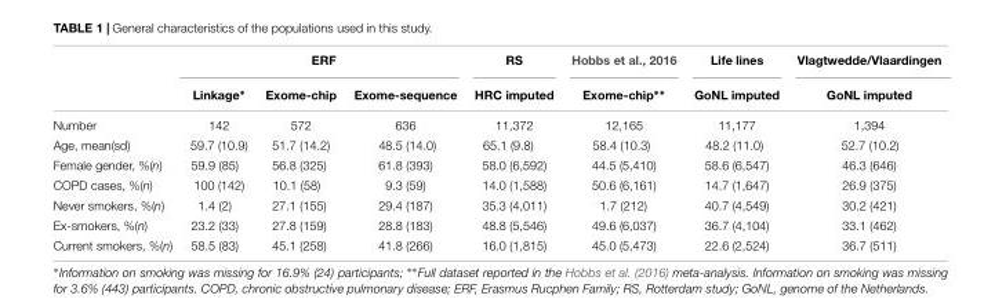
<table><thead><tr><td rowspan="2"></td><td colspan="3">ERF</td><td rowspan="2">RS HRC imputed</td><td rowspan="2">Hobbs et al., 2016 Exome-chip∗∗</td><td rowspan="2">Life lines GoNL imputed</td><td rowspan="2">Vlagtwedde/Vlaardingen GoNL imputed</td></tr><tr><td>Linkage∗</td><td>Exome-chip</td><td>Exome-sequence</td></tr></thead><tbody><tr><td>Number</td><td>142</td><td>572</td><td>636</td><td>11,372</td><td>12,165</td><td>11,177</td><td>1,394</td></tr><tr><td>Age, mean(sd)</td><td>59.7 (10.9)</td><td>51.7 (14.2)</td><td>48.5 (14.0)</td><td>65.1 (9.8)</td><td>58.4 (10.3)</td><td>48.2 (11.0)</td><td>52.7 (10.2)</td></tr><tr><td>Female gender, %(n)</td><td>59.9 (85)</td><td>56.8 (325)</td><td>61.8 (393)</td><td>58.0 (6,592)</td><td>44.5 (5,410)</td><td>58.6 (6,547)</td><td>46.3 (646)</td></tr><tr><td>COPD cases, %(n)</td><td>100 (142)</td><td>10.1 (58)</td><td>9.3 (59)</td><td>14.0 (1,588)</td><td>50.6 (6,161)</td><td>14.7 (1,647)</td><td>26.9 (375)</td></tr><tr><td>Never smokers, %(n)</td><td>1.4 (2)</td><td>27.1 (155)</td><td>29.4 (187)</td><td>35.3 (4,011)</td><td>1.7 (212)</td><td>40.7 (4,549)</td><td>30.2 (421)</td></tr><tr><td>Ex-smokers, %(n)</td><td>23.2 (33)</td><td>27.8 (159)</td><td>28.8 (183)</td><td>48.8 (5,546)</td><td>49.6 (6,037)</td><td>36.7 (4,104)</td><td>33.1 (462)</td></tr><tr><td>Current smokers, %(n)</td><td>58.5 (83)</td><td>45.1 (258)</td><td>41.8 (266)</td><td>16.0 (1,815)</td><td>45.0 (5,473)</td><td>22.6 (2,524)</td><td>36.7 (511)</td></tr></tbody></table>